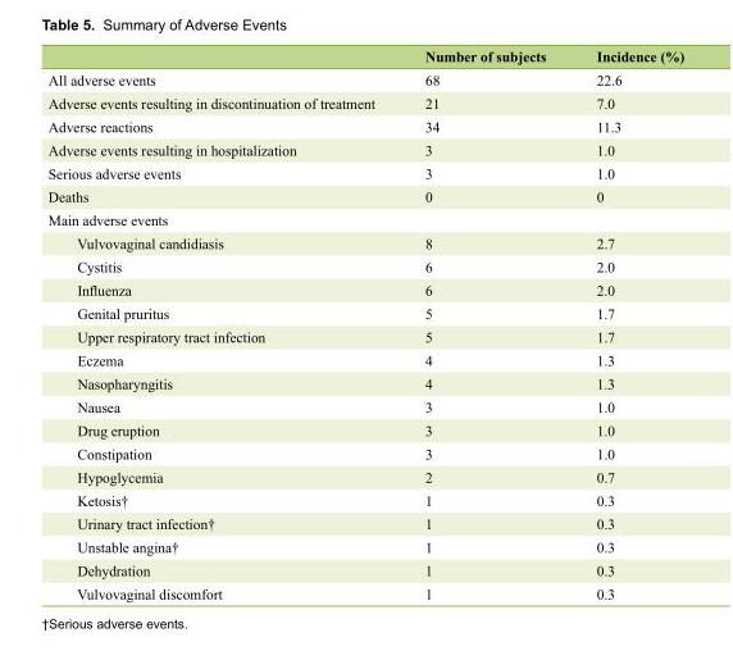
<table><thead><tr><td></td><td>Number of subjects</td><td>Incidence (%)</td></tr></thead><tbody><tr><td>All adverse events</td><td>68</td><td>22.6</td></tr><tr><td>Adverse events resulting in discontinuation of treatment</td><td>21</td><td>7.0</td></tr><tr><td>Adverse reactions</td><td>34</td><td>11.3</td></tr><tr><td>Adverse events resulting in hospitalization</td><td>3</td><td>1.0</td></tr><tr><td>Serious adverse events</td><td>3</td><td>1.0</td></tr><tr><td>Deaths</td><td>0</td><td>0</td></tr><tr><td colspan="3">Main adverse events</td></tr><tr><td>Vulvovaginal candidiasis</td><td>8</td><td>2.7</td></tr><tr><td>Cystitis</td><td>6</td><td>2.0</td></tr><tr><td>Influenza</td><td>6</td><td>2.0</td></tr><tr><td>Genital pruritus</td><td>5</td><td>1.7</td></tr><tr><td>Upper respiratory tract infection</td><td>5</td><td>1.7</td></tr><tr><td>Eczema</td><td>4</td><td>1.3</td></tr><tr><td>Nasopharyngitis</td><td>4</td><td>1.3</td></tr><tr><td>Nausea</td><td>3</td><td>1.0</td></tr><tr><td>Drug eruption</td><td>3</td><td>1.0</td></tr><tr><td>Constipation</td><td>3</td><td>1.0</td></tr><tr><td>Hypoglycemia</td><td>2</td><td>0.7</td></tr><tr><td>Ketosis†</td><td>1</td><td>0.3</td></tr><tr><td>Urinary tract infection†</td><td>1</td><td>0.3</td></tr><tr><td>Unstable angina†</td><td>1</td><td>0.3</td></tr><tr><td>Dehydration</td><td>1</td><td>0.3</td></tr><tr><td>Vulvovaginal discomfort</td><td>1</td><td>0.3</td></tr></tbody></table>